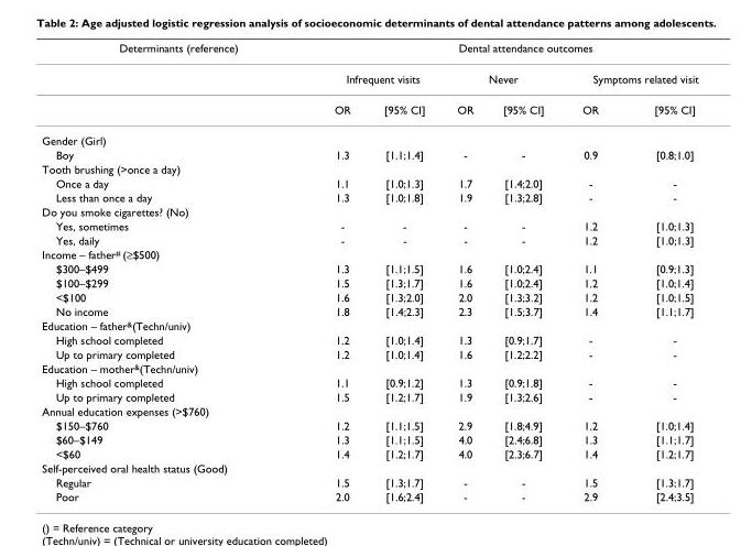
<table><thead><tr><td rowspan="3">Determinants (reference)</td><td colspan="6">Dental attendance outcomes</td></tr><tr><td colspan="2">Infrequent visits</td><td colspan="2">Never</td><td colspan="2">Symptoms related visit</td></tr><tr><td>OR</td><td>[95% CI]</td><td>OR</td><td>[95% CI]</td><td>OR</td><td>[95% CI]</td></tr></thead><tbody><tr><td colspan="7">Gender (Girl)</td></tr><tr><td>Boy</td><td>1.3</td><td>[1.1;1.4]</td><td>-</td><td>-</td><td>0.9</td><td>[0.8;1.0]</td></tr><tr><td colspan="7">Tooth brushing (&gt;once a day)</td></tr><tr><td>Once a day</td><td>1.1</td><td>[1.0;1.3]</td><td>1.7</td><td>[1.4;2.0]</td><td>-</td><td>-</td></tr><tr><td>Less than once a day</td><td>1.3</td><td>[1.0;1.8]</td><td>1.9</td><td>[1.3;2.8]</td><td>-</td><td>-</td></tr><tr><td colspan="7">Do you smoke cigarettes? (No)</td></tr><tr><td>Yes, sometimes</td><td>-</td><td>-</td><td>-</td><td>-</td><td>1.2</td><td>[1.0;1.3]</td></tr><tr><td>Yes, daily</td><td>-</td><td>-</td><td>-</td><td>-</td><td>1.2</td><td>[1.0;1.3]</td></tr><tr><td colspan="7">Income – father<sup>#</sup> (≥$500)</td></tr><tr><td>$300–$499</td><td>1.3</td><td>[1.1;1.5]</td><td>1.6</td><td>[1.0;2.4]</td><td>1.1</td><td>[0.9;1.3]</td></tr><tr><td>$100–$299</td><td>1.5</td><td>[1.3;1.7]</td><td>1.6</td><td>[1.0;2.4]</td><td>1.2</td><td>[1.0;1.4]</td></tr><tr><td>&lt;$100</td><td>1.6</td><td>[1.3;2.0]</td><td>2.0</td><td>[1.3;3.2]</td><td>1.2</td><td>[1.0;1.5]</td></tr><tr><td>No income</td><td>1.8</td><td>[1.4;2.3]</td><td>2.3</td><td>[1.5;3.7]</td><td>1.4</td><td>[1.1;1.7]</td></tr><tr><td colspan="7">Education – father<sup>&amp;</sup>(Techn/univ)</td></tr><tr><td>High school completed</td><td>1.2</td><td>[1.0;1.4]</td><td>1.3</td><td>[0.9;1.7]</td><td>-</td><td>-</td></tr><tr><td>Up to primary completed</td><td>1.2</td><td>[1.0;1.4]</td><td>1.6</td><td>[1.2;2.2]</td><td>-</td><td>-</td></tr><tr><td colspan="7">Education – mother<sup>&amp;</sup>(Techn/univ)</td></tr><tr><td>High school completed</td><td>1.1</td><td>[0.9;1.2]</td><td>1.3</td><td>[0.9;1.8]</td><td>-</td><td>-</td></tr><tr><td>Up to primary completed</td><td>1.5</td><td>[1.2;1.7]</td><td>1.9</td><td>[1.3;2.6]</td><td>-</td><td>-</td></tr><tr><td colspan="7">Annual education expenses (&gt;$760)</td></tr><tr><td>$150–$760</td><td>1.2</td><td>[1.1;1.5]</td><td>2.9</td><td>[1.8;4.9]</td><td>1.2</td><td>[1.0;1.4]</td></tr><tr><td>$60–$149</td><td>1.3</td><td>[1.1;1.5]</td><td>4.0</td><td>[2.4;6.8]</td><td>1.3</td><td>[1.1;1.7]</td></tr><tr><td>&lt;$60</td><td>1.4</td><td>[1.2;1.7]</td><td>4.0</td><td>[2.3;6.7]</td><td>1.4</td><td>[1.2;1.7]</td></tr><tr><td colspan="7">Self-perceived oral health status (Good)</td></tr><tr><td>Regular</td><td>1.5</td><td>[1.3;1.7]</td><td>-</td><td>-</td><td>1.5</td><td>[1.3;1.7]</td></tr><tr><td>Poor</td><td>2.0</td><td>[1.6;2.4]</td><td>-</td><td>-</td><td>2.9</td><td>[2.4;3.5]</td></tr></tbody></table>